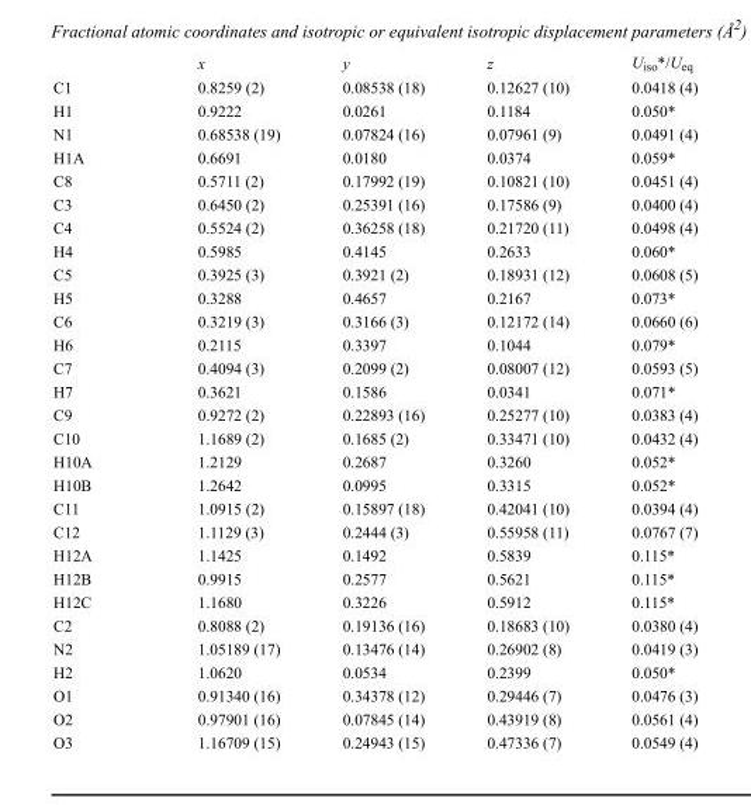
<table><thead><tr><td></td><td>x</td><td>y</td><td>z</td><td>U<sub>iso</sub>*/U<sub>eq</sub></td></tr></thead><tbody><tr><td>C1</td><td>0.8259 (2)</td><td>0.08538 (18)</td><td>0.12627 (10)</td><td>0.0418 (4)</td></tr><tr><td>H1</td><td>0.9222</td><td>0.0261</td><td>0.1184</td><td>0.050*</td></tr><tr><td>N1</td><td>0.68538 (19)</td><td>0.07824 (16)</td><td>0.07961 (9)</td><td>0.0491 (4)</td></tr><tr><td>H1A</td><td>0.6691</td><td>0.0180</td><td>0.0374</td><td>0.059*</td></tr><tr><td>C8</td><td>0.5711 (2)</td><td>0.17992 (19)</td><td>0.10821 (10)</td><td>0.0451 (4)</td></tr><tr><td>C3</td><td>0.6450 (2)</td><td>0.25391 (16)</td><td>0.17586 (9)</td><td>0.0400 (4)</td></tr><tr><td>C4</td><td>0.5524 (2)</td><td>0.36258 (18)</td><td>0.21720 (11)</td><td>0.0498 (4)</td></tr><tr><td>H4</td><td>0.5985</td><td>0.4145</td><td>0.2633</td><td>0.060*</td></tr><tr><td>C5</td><td>0.3925 (3)</td><td>0.3921 (2)</td><td>0.18931 (12)</td><td>0.0608 (5)</td></tr><tr><td>H5</td><td>0.3288</td><td>0.4657</td><td>0.2167</td><td>0.073*</td></tr><tr><td>C6</td><td>0.3219 (3)</td><td>0.3166 (3)</td><td>0.12172 (14)</td><td>0.0660 (6)</td></tr><tr><td>H6</td><td>0.2115</td><td>0.3397</td><td>0.1044</td><td>0.079*</td></tr><tr><td>C7</td><td>0.4094 (3)</td><td>0.2099 (2)</td><td>0.08007 (12)</td><td>0.0593 (5)</td></tr><tr><td>H7</td><td>0.3621</td><td>0.1586</td><td>0.0341</td><td>0.071*</td></tr><tr><td>C9</td><td>0.9272 (2)</td><td>0.22893 (16)</td><td>0.25277 (10)</td><td>0.0383 (4)</td></tr><tr><td>C10</td><td>1.1689 (2)</td><td>0.1685 (2)</td><td>0.33471 (10)</td><td>0.0432 (4)</td></tr><tr><td>H10A</td><td>1.2129</td><td>0.2687</td><td>0.3260</td><td>0.052*</td></tr><tr><td>H10B</td><td>1.2642</td><td>0.0995</td><td>0.3315</td><td>0.052*</td></tr><tr><td>C11</td><td>1.0915 (2)</td><td>0.15897 (18)</td><td>0.42041 (10)</td><td>0.0394 (4)</td></tr><tr><td>C12</td><td>1.1129 (3)</td><td>0.2444 (3)</td><td>0.55958 (11)</td><td>0.0767 (7)</td></tr><tr><td>H12A</td><td>1.1425</td><td>0.1492</td><td>0.5839</td><td>0.115*</td></tr><tr><td>H12B</td><td>0.9915</td><td>0.2577</td><td>0.5621</td><td>0.115*</td></tr><tr><td>H12C</td><td>1.1680</td><td>0.3226</td><td>0.5912</td><td>0.115*</td></tr><tr><td>C2</td><td>0.8088 (2)</td><td>0.19136 (16)</td><td>0.18683 (10)</td><td>0.0380 (4)</td></tr><tr><td>N2</td><td>1.05189 (17)</td><td>0.13476 (14)</td><td>0.26902 (8)</td><td>0.0419 (3)</td></tr><tr><td>H2</td><td>1.0620</td><td>0.0534</td><td>0.2399</td><td>0.050*</td></tr><tr><td>O1</td><td>0.91340 (16)</td><td>0.34378 (12)</td><td>0.29446 (7)</td><td>0.0476 (3)</td></tr><tr><td>O2</td><td>0.97901 (16)</td><td>0.07845 (14)</td><td>0.43919 (8)</td><td>0.0561 (4)</td></tr><tr><td>O3</td><td>1.16709 (15)</td><td>0.24943 (15)</td><td>0.47336 (7)</td><td>0.0549 (4)</td></tr></tbody></table>